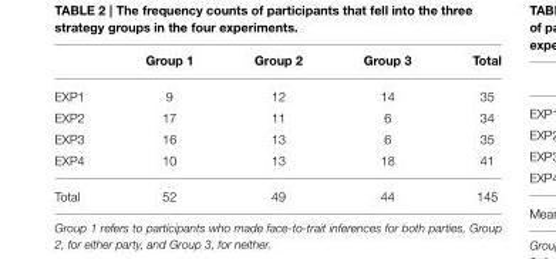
<table><thead><tr><td></td><td>Group 1</td><td>Group 2</td><td>Group 3</td><td>Total</td></tr></thead><tbody><tr><td>EXP1</td><td>9</td><td>12</td><td>14</td><td>35</td></tr><tr><td>EXP2</td><td>17</td><td>11</td><td>6</td><td>34</td></tr><tr><td>EXP3</td><td>16</td><td>13</td><td>6</td><td>35</td></tr><tr><td>EXP4</td><td>10</td><td>13</td><td>18</td><td>41</td></tr><tr><td>Total</td><td>52</td><td>49</td><td>44</td><td>145</td></tr></tbody></table>